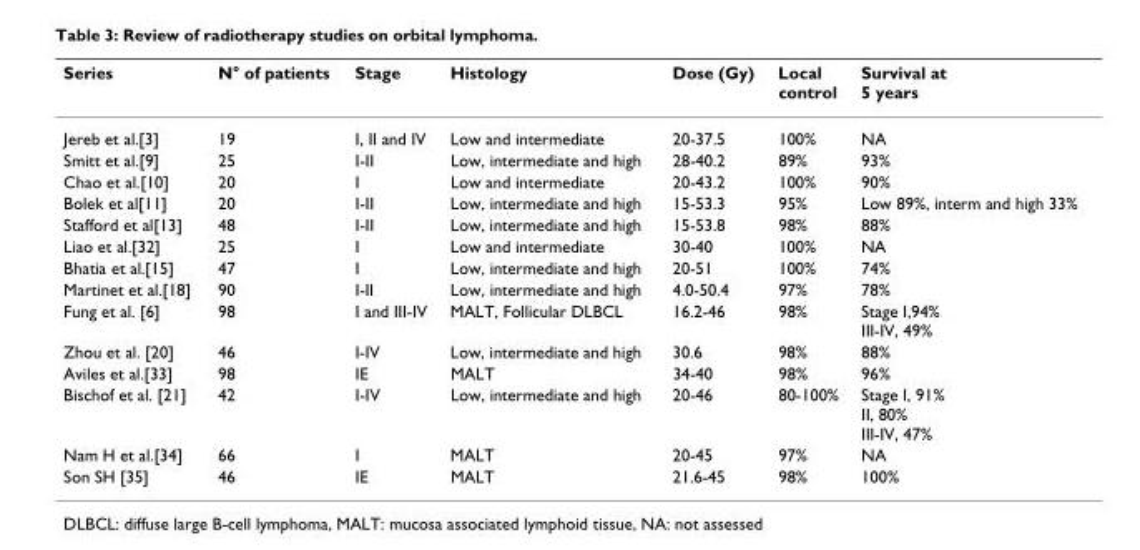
<table><thead><tr><td>Series</td><td>N° of patients</td><td>Stage</td><td>Histology</td><td>Dose (Gy)</td><td>Local control</td><td>Survival at 5 years</td></tr></thead><tbody><tr><td>Jereb et al.[3]</td><td>19</td><td>I, II and IV</td><td>Low and intermediate</td><td>20-37.5</td><td>100%</td><td>NA</td></tr><tr><td>Smitt et al.[9]</td><td>25</td><td>I-II</td><td>Low, intermediate and high</td><td>28-40.2</td><td>89%</td><td>93%</td></tr><tr><td>Chao et al.[10]</td><td>20</td><td>I</td><td>Low and intermediate</td><td>20-43.2</td><td>100%</td><td>90%</td></tr><tr><td>Bolek et al[11]</td><td>20</td><td>I-II</td><td>Low, intermediate and high</td><td>15-53.3</td><td>95%</td><td>Low 89%, interm and high 33%</td></tr><tr><td>Stafford et al[13]</td><td>48</td><td>I-II</td><td>Low, intermediate and high</td><td>15-53.8</td><td>98%</td><td>88%</td></tr><tr><td>Liao et al.[32]</td><td>25</td><td>I</td><td>Low and intermediate</td><td>30-40</td><td>100%</td><td>NA</td></tr><tr><td>Bhatia et al.[15]</td><td>47</td><td>I</td><td>Low, intermediate and high</td><td>20-51</td><td>100%</td><td>74%</td></tr><tr><td>Martinet et al.[18]</td><td>90</td><td>I-II</td><td>Low, intermediate and high</td><td>4.0-50.4</td><td>97%</td><td>78%</td></tr><tr><td>Fung et al. [6]</td><td>98</td><td>I and III-IV</td><td>MALT, Follicular DLBCL</td><td>16.2-46</td><td>98%</td><td>Stage I,94% III-IV, 49%</td></tr><tr><td>Zhou et al. [20]</td><td>46</td><td>I-IV</td><td>Low, intermediate and high</td><td>30.6</td><td>98%</td><td>88%</td></tr><tr><td>Aviles et al.[33]</td><td>98</td><td>IE</td><td>MALT</td><td>34-40</td><td>98%</td><td>96%</td></tr><tr><td>Bischof et al. [21]</td><td>42</td><td>I-IV</td><td>Low, intermediate and high</td><td>20-46</td><td>80-100%</td><td>Stage I, 91% II, 80% III-IV, 47%</td></tr><tr><td>Nam H et al.[34]</td><td>66</td><td>I</td><td>MALT</td><td>20-45</td><td>97%</td><td>NA</td></tr><tr><td>Son SH [35]</td><td>46</td><td>IE</td><td>MALT</td><td>21.6-45</td><td>98%</td><td>100%</td></tr></tbody></table>